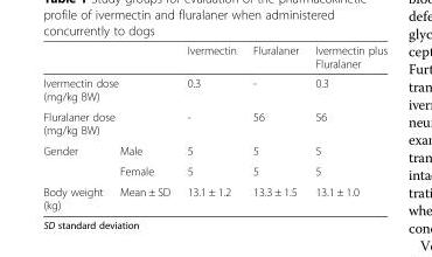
<table><thead><tr><td></td><td></td><td>Ivermectin</td><td>Fluralaner</td><td>Ivermectin plus Fluralaner</td></tr></thead><tbody><tr><td colspan="2">Ivermectin dose (mg/kg BW)</td><td>0.3</td><td>-</td><td>0.3</td></tr><tr><td colspan="2">Fluralaner dose (mg/kg BW)</td><td>-</td><td>56</td><td>56</td></tr><tr><td rowspan="2">Gender</td><td>Male</td><td>5</td><td>5</td><td>5</td></tr><tr><td>Female</td><td>5</td><td>5</td><td>5</td></tr><tr><td>Body weight (kg)</td><td>Mean ± SD</td><td>13.1 ± 1.2</td><td>13.3 ± 1.5</td><td>13.1 ± 1.0</td></tr></tbody></table>